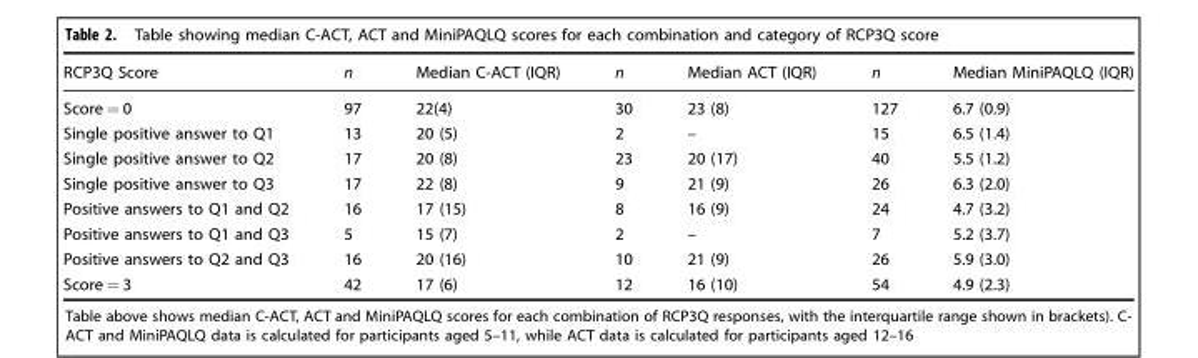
<table><thead><tr><td>RCP3Q Score</td><td>n</td><td>Median C-ACT (IQR)</td><td>n</td><td>Median ACT (IQR)</td><td>n</td><td>Median MiniPAQLQ (IQR)</td></tr></thead><tbody><tr><td>Score = 0</td><td>97</td><td>22(4)</td><td>30</td><td>23 (8)</td><td>127</td><td>6.7 (0.9)</td></tr><tr><td>Single positive answer to Q1</td><td>13</td><td>20 (5)</td><td>2</td><td>–</td><td>15</td><td>6.5 (1.4)</td></tr><tr><td>Single positive answer to Q2</td><td>17</td><td>20 (8)</td><td>23</td><td>20 (17)</td><td>40</td><td>5.5 (1.2)</td></tr><tr><td>Single positive answer to Q3</td><td>17</td><td>22 (8)</td><td>9</td><td>21 (9)</td><td>26</td><td>6.3 (2.0)</td></tr><tr><td>Positive answers to Q1 and Q2</td><td>16</td><td>17 (15)</td><td>8</td><td>16 (9)</td><td>24</td><td>4.7 (3.2)</td></tr><tr><td>Positive answers to Q1 and Q3</td><td>5</td><td>15 (7)</td><td>2</td><td>–</td><td>7</td><td>5.2 (3.7)</td></tr><tr><td>Positive answers to Q2 and Q3</td><td>16</td><td>20 (16)</td><td>10</td><td>21 (9)</td><td>26</td><td>5.9 (3.0)</td></tr><tr><td>Score = 3</td><td>42</td><td>17 (6)</td><td>12</td><td>16 (10)</td><td>54</td><td>4.9 (2.3)</td></tr></tbody></table>